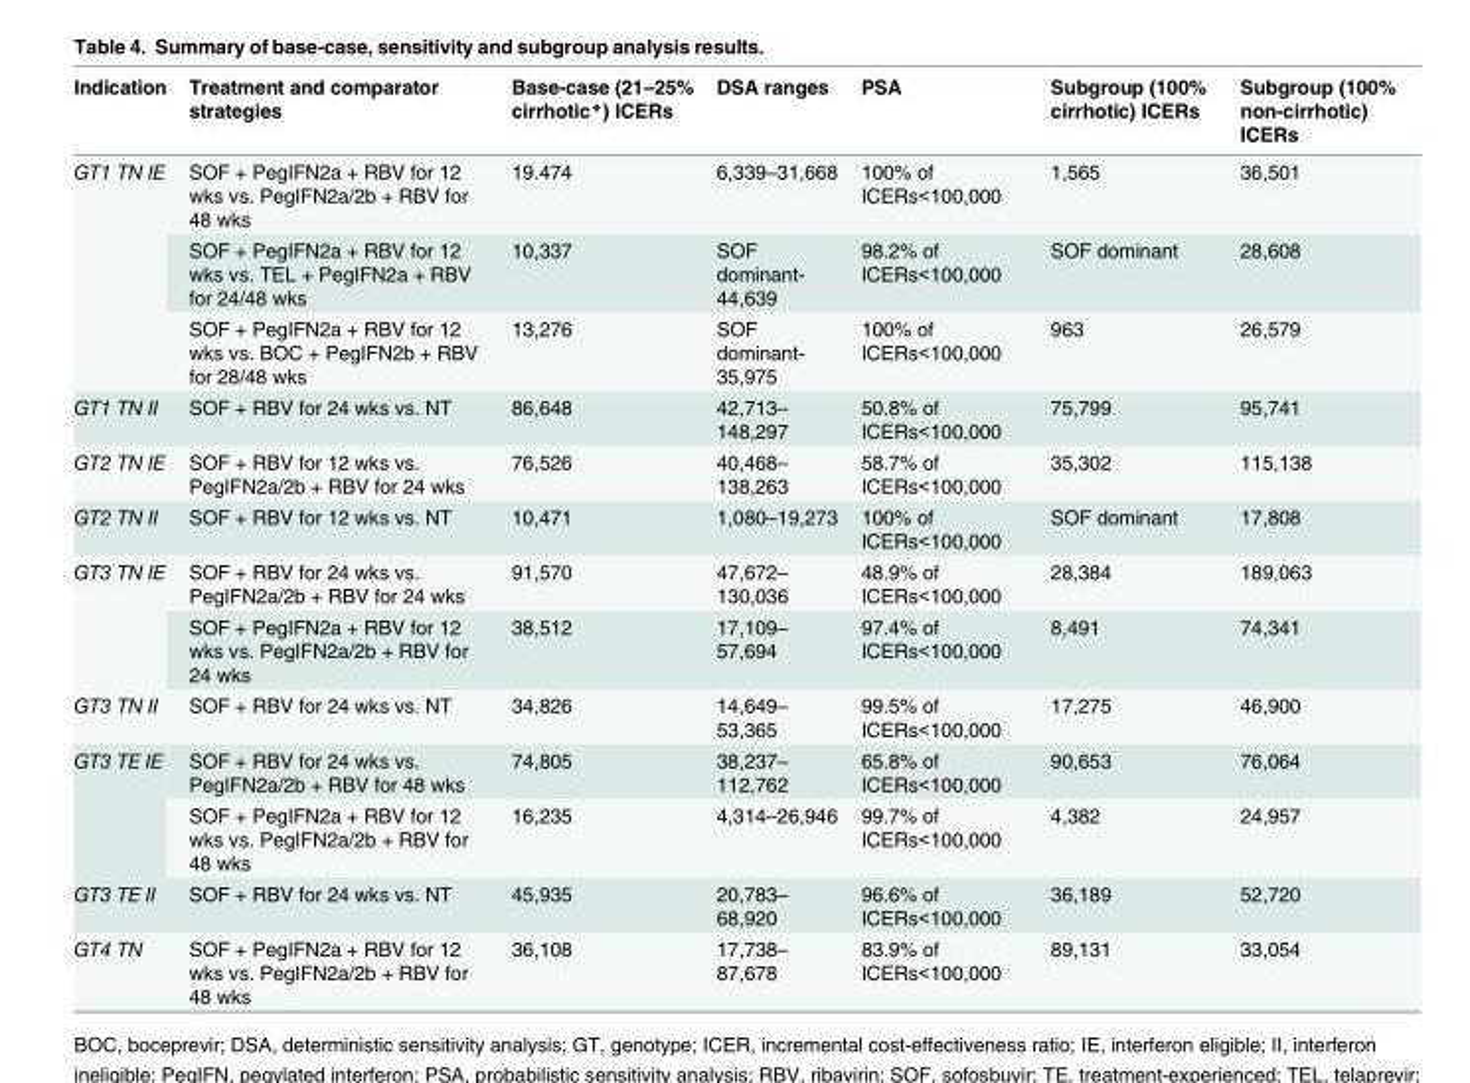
<table><thead><tr><td>Indication</td><td>Treatment and comparator strategies</td><td>Base-case (21–25% cirrhotic*) ICERs</td><td>DSA ranges</td><td>PSA</td><td>Subgroup (100% cirrhotic) ICERs</td><td>Subgroup (100% non-cirrhotic) ICERs</td></tr></thead><tbody><tr><td rowspan="3">GT1 TN IE</td><td>SOF + PegIFN2a + RBV for 12 wks vs. PegIFN2a/2b + RBV for 48 wks</td><td>19.474</td><td>6,339–31,668</td><td>100% of ICERs&lt;100,000</td><td>1,565</td><td>36,501</td></tr><tr><td>SOF + PegIFN2a + RBV for 12 wks vs. TEL + PegIFN2a + RBV for 24/48 wks</td><td>10,337</td><td>SOF dominant- 44,639</td><td>98.2% of ICERs&lt;100,000</td><td>SOF dominant</td><td>28,608</td></tr><tr><td>SOF + PegIFN2a + RBV for 12 wks vs. BOC + PegIFN2b + RBV for 28/48 wks</td><td>13,276</td><td>SOF dominant- 35,975</td><td>100% of ICERs&lt;100,000</td><td>963</td><td>26,579</td></tr><tr><td>GT1 TN II</td><td>SOF + RBV for 24 wks vs. NT</td><td>86,648</td><td>42,713– 148,297</td><td>50.8% of ICERs&lt;100,000</td><td>75,799</td><td>95,741</td></tr><tr><td>GT2 TN IE</td><td>SOF + RBV for 12 wks vs. PegIFN2a/2b + RBV for 24 wks</td><td>76,526</td><td>40,468– 138,263</td><td>58.7% of ICERs&lt;100,000</td><td>35,302</td><td>115,138</td></tr><tr><td>GT2 TN II</td><td>SOF + RBV for 12 wks vs. NT</td><td>10,471</td><td>1,080–19,273</td><td>100% of ICERs&lt;100,000</td><td>SOF dominant</td><td>17,808</td></tr><tr><td rowspan="2">GT3 TN IE</td><td>SOF + RBV for 24 wks vs. PegIFN2a/2b + RBV for 24 wks</td><td>91,570</td><td>47,672– 130,036</td><td>48.9% of ICERs&lt;100,000</td><td>28,384</td><td>189,063</td></tr><tr><td>SOF + PegIFN2a + RBV for 12 wks vs. PegIFN2a/2b + RBV for 24 wks</td><td>38,512</td><td>17,109– 57,694</td><td>97.4% of ICERs&lt;100,000</td><td>8,491</td><td>74,341</td></tr><tr><td>GT3 TN II</td><td>SOF + RBV for 24 wks vs. NT</td><td>34,826</td><td>14,649– 53,365</td><td>99.5% of ICERs&lt;100,000</td><td>17,275</td><td>46,900</td></tr><tr><td rowspan="2">GT3 TE IE</td><td>SOF + RBV for 24 wks vs. PegIFN2a/2b + RBV for 48 wks</td><td>74,805</td><td>38,237– 112,762</td><td>65.8% of ICERs&lt;100,000</td><td>90,653</td><td>76,064</td></tr><tr><td>SOF + PegIFN2a + RBV for 12 wks vs. PegIFN2a/2b + RBV for 48 wks</td><td>16,235</td><td>4,314–26,946</td><td>99.7% of ICERs&lt;100,000</td><td>4,382</td><td>24,957</td></tr><tr><td>GT3 TE II</td><td>SOF + RBV for 24 wks vs. NT</td><td>45,935</td><td>20,783– 68,920</td><td>96.6% of ICERs&lt;100,000</td><td>36,189</td><td>52,720</td></tr><tr><td>GT4 TN</td><td>SOF + PegIFN2a + RBV for 12 wks vs. PegIFN2a/2b + RBV for 48 wks</td><td>36,108</td><td>17,738– 87,678</td><td>83.9% of ICERs&lt;100,000</td><td>89,131</td><td>33,054</td></tr></tbody></table>